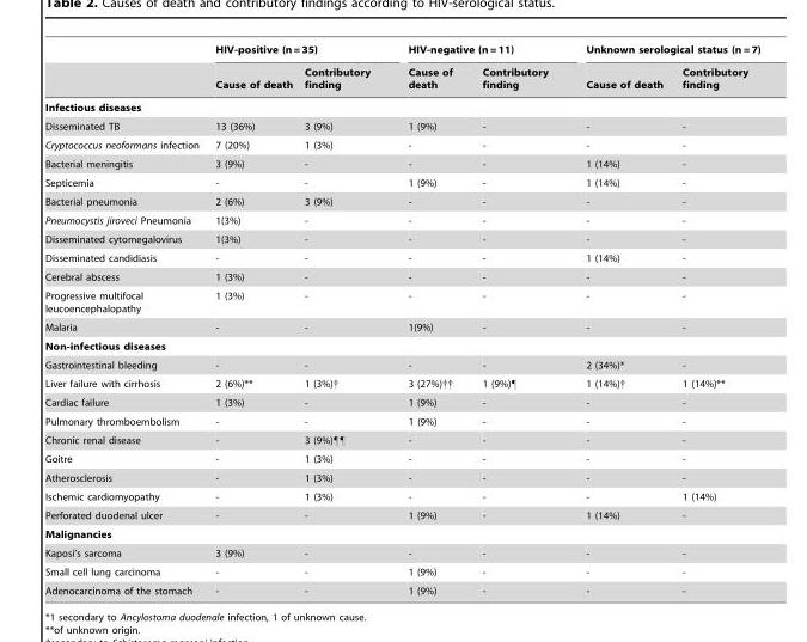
<table><thead><tr><td rowspan="2"></td><td colspan="2">HIV-positive (n = 35)</td><td colspan="2">HIV-negative (n = 11)</td><td colspan="2">Unknown serological status (n = 7)</td></tr><tr><td>Cause of death</td><td>Contributory finding</td><td>Cause of death</td><td>Contributory finding</td><td>Cause of death</td><td>Contributory finding</td></tr></thead><tbody><tr><td colspan="7">Infectious diseases</td></tr><tr><td>Disseminated TB</td><td>13 (36%)</td><td>3 (9%)</td><td>1 (9%)</td><td>-</td><td>-</td><td>-</td></tr><tr><td>Cryptococcus neoformans infection</td><td>7 (20%)</td><td>1 (3%)</td><td>-</td><td>-</td><td>-</td><td>-</td></tr><tr><td>Bacterial meningitis</td><td>3 (9%)</td><td>-</td><td>-</td><td>-</td><td>1 (14%)</td><td>-</td></tr><tr><td>Septicemia</td><td>-</td><td>-</td><td>1 (9%)</td><td>-</td><td>1 (14%)</td><td>-</td></tr><tr><td>Bacterial pneumonia</td><td>2 (6%)</td><td>3 (9%)</td><td>-</td><td>-</td><td>-</td><td>-</td></tr><tr><td>Pneumocystis jiroveci Pneumonia</td><td>1(3%)</td><td>-</td><td>-</td><td>-</td><td>-</td><td>-</td></tr><tr><td>Disseminated cytomegalovirus</td><td>1(3%)</td><td>-</td><td>-</td><td>-</td><td>-</td><td>-</td></tr><tr><td>Disseminated candidiasis</td><td>-</td><td>-</td><td>-</td><td>-</td><td>1 (14%)</td><td>-</td></tr><tr><td>Cerebral abscess</td><td>1 (3%)</td><td>-</td><td>-</td><td>-</td><td>-</td><td>-</td></tr><tr><td>Progressive multifocal leucoencephalopathy</td><td>1 (3%)</td><td>-</td><td>-</td><td>-</td><td>-</td><td>-</td></tr><tr><td>Malaria</td><td>-</td><td>-</td><td>1(9%)</td><td>-</td><td>-</td><td>-</td></tr><tr><td colspan="7">Non-infectious diseases</td></tr><tr><td>Gastrointestinal bleeding</td><td>-</td><td>-</td><td>-</td><td>-</td><td>2 (34%)*</td><td>-</td></tr><tr><td>Liver failure with cirrhosis</td><td>2 (6%)**</td><td>1 (3%)†</td><td>3 (27%)††</td><td>1 (9%)¶</td><td>1 (14%)†</td><td>1 (14%)**</td></tr><tr><td>Cardiac failure</td><td>1 (3%)</td><td>-</td><td>1 (9%)</td><td>-</td><td>-</td><td>-</td></tr><tr><td>Pulmonary thromboembolism</td><td>-</td><td>-</td><td>1 (9%)</td><td>-</td><td>-</td><td>-</td></tr><tr><td>Chronic renal disease</td><td>-</td><td>3 (9%)¶¶</td><td>-</td><td>-</td><td>-</td><td>-</td></tr><tr><td>Goitre</td><td>-</td><td>1 (3%)</td><td>-</td><td>-</td><td>-</td><td>-</td></tr><tr><td>Atherosclerosis</td><td>-</td><td>1 (3%)</td><td>-</td><td>-</td><td>-</td><td>-</td></tr><tr><td>Ischemic cardiomyopathy</td><td>-</td><td>1 (3%)</td><td>-</td><td>-</td><td>-</td><td>1 (14%)</td></tr><tr><td>Perforated duodenal ulcer</td><td>-</td><td>-</td><td>1 (9%)</td><td>-</td><td>1 (14%)</td><td>-</td></tr><tr><td colspan="7">Malignancies</td></tr><tr><td>Kaposi’s sarcoma</td><td>3 (9%)</td><td>-</td><td>-</td><td>-</td><td>-</td><td>-</td></tr><tr><td>Small cell lung carcinoma</td><td>-</td><td>-</td><td>1 (9%)</td><td>-</td><td>-</td><td>-</td></tr><tr><td>Adenocarcinoma of the stomach</td><td>-</td><td>-</td><td>1 (9%)</td><td>-</td><td>-</td><td>-</td></tr></tbody></table>